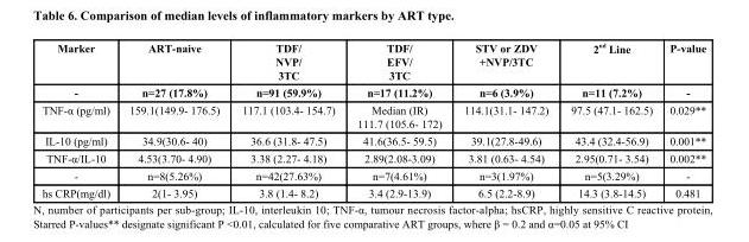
<table><thead><tr><td rowspan="2">Marker -</td><td rowspan="2">ART-naive n=27 (17.8%)</td><td rowspan="2">TDF/ NVP/ 3TC n=91 (59.9%)</td><td rowspan="2">TDF/ EFV/ 3TC n=17 (11.2%)</td><td rowspan="2">STV or ZDV +NVP/3TC n=6 (3.9%)</td><td rowspan="2">2 <sup>nd</sup> Line n=11 (7.2%)</td><td rowspan="2">P-value -</td></tr><tr></tr></thead><tbody><tr><td>TNF-α (pg/ml)</td><td>159.1(149.9- 176.5)</td><td>117.1 (103.4- 154.7)</td><td>Median (IR) 111.7 (105.6- 172)</td><td>114.1(31.1- 147.2)</td><td>97.5 (47.1- 162.5)</td><td>0.029**</td></tr><tr><td>IL-10 (pg/ml)</td><td>34.9(30.6- 40)</td><td>36.6 (31.8- 47.5)</td><td>41.6(36.5- 59.5)</td><td>39.1(27.8-49.6)</td><td>43.4 (32.4-56.9)</td><td>0.001**</td></tr><tr><td>TNF-α/IL-10</td><td>4.53(3.70- 4.90)</td><td>3.38 (2.27- 4.18)</td><td>2.89(2.08-3.09)</td><td>3.81 (0.63- 4.54)</td><td>2.95(0.71- 3.54)</td><td>0.002**</td></tr><tr><td>-</td><td>n=8(5.26%)</td><td>n=42(27.63%)</td><td>n=7(4.61%)</td><td>n=3(1.97%)</td><td>n=5(3.29%)</td><td>-</td></tr><tr><td>hs CRP(mg/dl)</td><td>2(1- 3.95)</td><td>3.8 (1.4- 8.2)</td><td>3.4 (2.9-13.9)</td><td>6.5 (2.2-8.9)</td><td>14.3 (3.8-14.5)</td><td>0.481</td></tr></tbody></table>